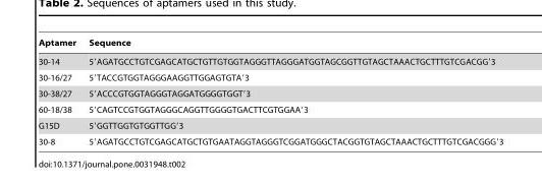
<table><thead><tr><td>Aptamer</td><td>Sequence</td></tr></thead><tbody><tr><td>30-14</td><td>5′AGATGCCTGTCGAGCATGCTGTTGTGGTAGGGTTAGGGATGGTAGCGGTTGTAGCTAAACTGCTTTGTCGACGG′3</td></tr><tr><td>30-16/27</td><td>5′TACCGTGGTAGGGAAGGTTGGAGTGTA′3</td></tr><tr><td>30-38/27</td><td>5′ACCCGTGGTAGGGTAGGATGGGGTGGT′3</td></tr><tr><td>60-18/38</td><td>5′CAGTCCGTGGTAGGGCAGGTTGGGGTGACTTCGTGGAA′3</td></tr><tr><td>G15D</td><td>5′GGTTGGTGTGGTTGG′3</td></tr><tr><td>30-8</td><td>5′AGATGCCTGTCGAGCATGCTGTGAATAGGTAGGGTCGGATGGGCTACGGTGTAGCTAAACTGCTTTGTCGACGGG′3</td></tr></tbody></table>